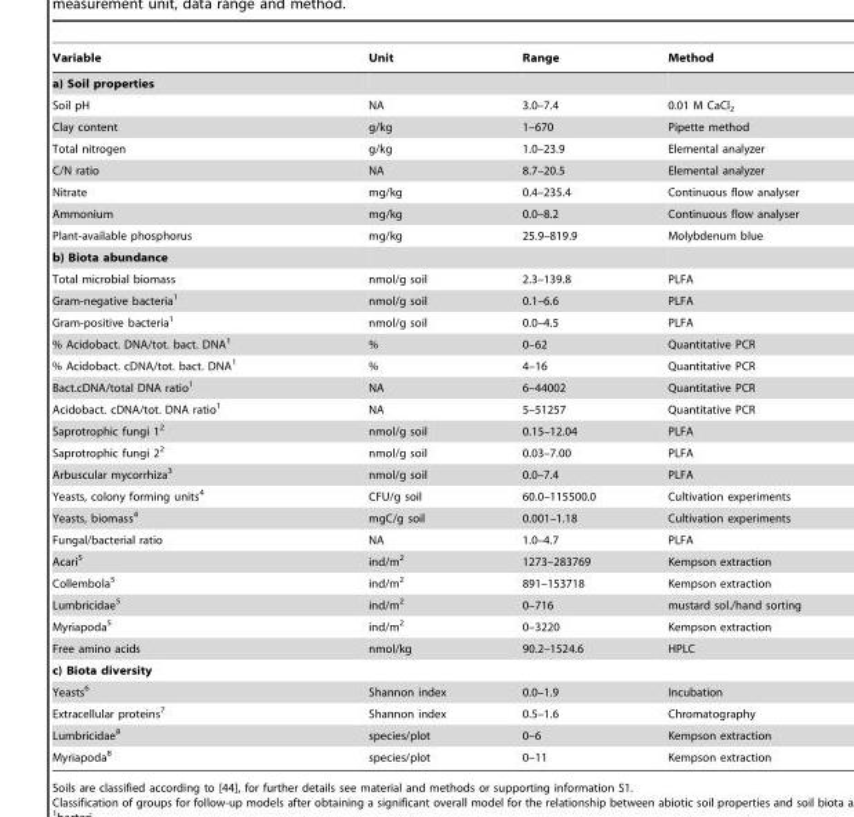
<table><thead><tr><td>Variable</td><td>Unit</td><td>Range</td><td>Method</td></tr></thead><tbody><tr><td colspan="4">a) Soil properties</td></tr><tr><td>Soil pH</td><td>NA</td><td>3.0–7.4</td><td>0.01 M CaCl<sub>2</sub></td></tr><tr><td>Clay content</td><td>g/kg</td><td>1–670</td><td>Pipette method</td></tr><tr><td>Total nitrogen</td><td>g/kg</td><td>1.0–23.9</td><td>Elemental analyzer</td></tr><tr><td>C/N ratio</td><td>NA</td><td>8.7–20.5</td><td>Elemental analyzer</td></tr><tr><td>Nitrate</td><td>mg/kg</td><td>0.4–235.4</td><td>Continuous flow analyser</td></tr><tr><td>Ammonium</td><td>mg/kg</td><td>0.0–8.2</td><td>Continuous flow analyser</td></tr><tr><td>Plant-available phosphorus</td><td>mg/kg</td><td>25.9–819.9</td><td>Molybdenum blue</td></tr><tr><td colspan="4">b) Biota abundance</td></tr><tr><td>Total microbial biomass</td><td>nmol/g soil</td><td>2.3–139.8</td><td>PLFA</td></tr><tr><td>Gram-negative bacteria<sup>1</sup></td><td>nmol/g soil</td><td>0.1–6.6</td><td>PLFA</td></tr><tr><td>Gram-positive bacteria<sup>1</sup></td><td>nmol/g soil</td><td>0.0–4.5</td><td>PLFA</td></tr><tr><td>% Acidobact. DNA/tot. bact. DNA<sup>1</sup></td><td>%</td><td>0–62</td><td>Quantitative PCR</td></tr><tr><td>% Acidobact. cDNA/tot. bact. DNA<sup>1</sup></td><td>%</td><td>4–16</td><td>Quantitative PCR</td></tr><tr><td>Bact.cDNA/total DNA ratio<sup>1</sup></td><td>NA</td><td>6–44002</td><td>Quantitative PCR</td></tr><tr><td>Acidobact. cDNA/tot. DNA ratio<sup>1</sup></td><td>NA</td><td>5–51257</td><td>Quantitative PCR</td></tr><tr><td>Saprotrophic fungi 1<sup>2</sup></td><td>nmol/g soil</td><td>0.15–12.04</td><td>PLFA</td></tr><tr><td>Saprotrophic fungi 2<sup>2</sup></td><td>nmol/g soil</td><td>0.03–7.00</td><td>PLFA</td></tr><tr><td>Arbuscular mycorrhiza<sup>3</sup></td><td>nmol/g soil</td><td>0.0–7.4</td><td>PLFA</td></tr><tr><td>Yeasts, colony forming units<sup>4</sup></td><td>CFU/g soil</td><td>60.0–115500.0</td><td>Cultivation experiments</td></tr><tr><td>Yeasts, biomass<sup>4</sup></td><td>mgC/g soil</td><td>0.001–1.18</td><td>Cultivation experiments</td></tr><tr><td>Fungal/bacterial ratio</td><td>NA</td><td>1.0–4.7</td><td>PLFA</td></tr><tr><td>Acari<sup>5</sup></td><td>ind/m<sup>2</sup></td><td>1273–283769</td><td>Kempson extraction</td></tr><tr><td>Collembola<sup>5</sup></td><td>ind/m<sup>2</sup></td><td>891–153718</td><td>Kempson extraction</td></tr><tr><td>Lumbricidae<sup>5</sup></td><td>ind/m<sup>2</sup></td><td>0–716</td><td>mustard sol./hand sorting</td></tr><tr><td>Myriapoda<sup>5</sup></td><td>ind/m<sup>2</sup></td><td>0–3220</td><td>Kempson extraction</td></tr><tr><td>Free amino acids</td><td>nmol/kg</td><td>90.2–1524.6</td><td>HPLC</td></tr><tr><td colspan="4">c) Biota diversity</td></tr><tr><td>Yeasts<sup>6</sup></td><td>Shannon index</td><td>0.0–1.9</td><td>Incubation</td></tr><tr><td>Extracellular proteins<sup>7</sup></td><td>Shannon index</td><td>0.5–1.6</td><td>Chromatography</td></tr><tr><td>Lumbricidae<sup>8</sup></td><td>species/plot</td><td>0–6</td><td>Kempson extraction</td></tr><tr><td>Myriapoda<sup>8</sup></td><td>species/plot</td><td>0–11</td><td>Kempson extraction</td></tr></tbody></table>